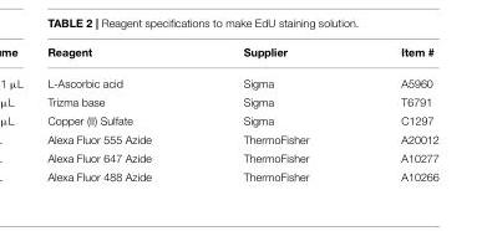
<table><thead><tr><td>Reagent</td><td>Supplier</td><td>Item #</td></tr></thead><tbody><tr><td>L-Ascorbic acid</td><td>Sigma</td><td>A5960</td></tr><tr><td>Trizma base</td><td>Sigma</td><td>T6791</td></tr><tr><td>Copper (II) Sulfate</td><td>Sigma</td><td>C1297</td></tr><tr><td>Alexa Fluor 555 Azide</td><td>ThermoFisher</td><td>A20012</td></tr><tr><td>Alexa Fluor 647 Azide</td><td>ThermoFisher</td><td>A10277</td></tr><tr><td>Alexa Fluor 488 Azide</td><td>ThermoFisher</td><td>A10266</td></tr></tbody></table>